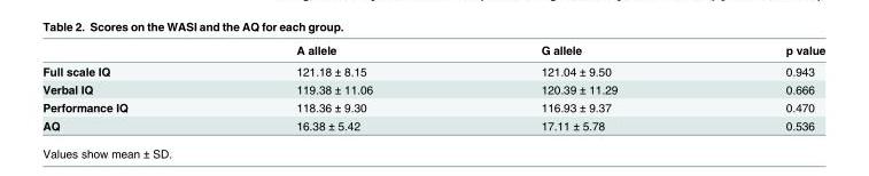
<table><thead><tr><td></td><td>A allele</td><td>G allele</td><td>p value</td></tr></thead><tbody><tr><td>Full scale IQ</td><td>121.18 ± 8.15</td><td>121.04 ± 9.50</td><td>0.943</td></tr><tr><td>Verbal IQ</td><td>119.38 ± 11.06</td><td>120.39 ± 11.29</td><td>0.666</td></tr><tr><td>Performance IQ</td><td>118.36 ± 9.30</td><td>116.93 ± 9.37</td><td>0.470</td></tr><tr><td>AQ</td><td>16.38 ± 5.42</td><td>17.11 ± 5.78</td><td>0.536</td></tr></tbody></table>